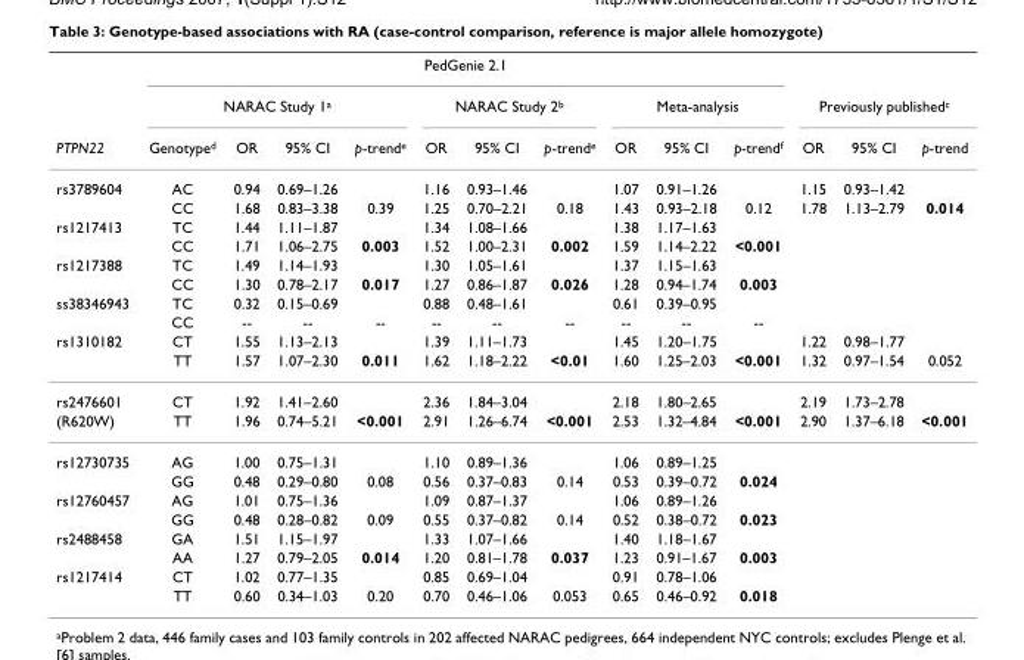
<table><thead><tr><td rowspan="3">PTPN22</td><td colspan="10">PedGenie 2.1</td><td></td><td></td><td></td></tr><tr><td colspan="4">NARAC Study 1<sup>a</sup></td><td colspan="3">NARAC Study 2<sup>b</sup></td><td colspan="3">Meta-analysis</td><td colspan="3">Previously published<sup>c</sup></td></tr><tr><td>Genotype<sup>d</sup></td><td>OR</td><td>95% CI</td><td>p-trend<sup>e</sup></td><td>OR</td><td>95% CI</td><td>p-trend<sup>e</sup></td><td>OR</td><td>95% CI</td><td>p-trend<sup>f</sup></td><td>OR</td><td>95% CI</td><td>p-trend</td></tr></thead><tbody><tr><td rowspan="2">rs3789604</td><td>AC</td><td>0.94</td><td>0.69–1.26</td><td></td><td>1.16</td><td>0.93–1.46</td><td></td><td>1.07</td><td>0.91–1.26</td><td></td><td>1.15</td><td>0.93–1.42</td><td></td></tr><tr><td>CC</td><td>1.68</td><td>0.83–3.38</td><td>0.39</td><td>1.25</td><td>0.70–2.21</td><td>0.18</td><td>1.43</td><td>0.93–2.18</td><td>0.12</td><td>1.78</td><td>1.13–2.79</td><td>0.014</td></tr><tr><td rowspan="2">rs1217413</td><td>TC</td><td>1.44</td><td>1.11–1.87</td><td></td><td>1.34</td><td>1.08–1.66</td><td></td><td>1.38</td><td>1.17–1.63</td><td></td><td></td><td></td><td></td></tr><tr><td>CC</td><td>1.71</td><td>1.06–2.75</td><td>0.003</td><td>1.52</td><td>1.00–2.31</td><td>0.002</td><td>1.59</td><td>1.14–2.22</td><td>&lt;0.001</td><td></td><td></td><td></td></tr><tr><td rowspan="2">rs1217388</td><td>TC</td><td>1.49</td><td>1.14–1.93</td><td></td><td>1.30</td><td>1.05–1.61</td><td></td><td>1.37</td><td>1.15–1.63</td><td></td><td></td><td></td><td></td></tr><tr><td>CC</td><td>1.30</td><td>0.78–2.17</td><td>0.017</td><td>1.27</td><td>0.86–1.87</td><td>0.026</td><td>1.28</td><td>0.94–1.74</td><td>0.003</td><td></td><td></td><td></td></tr><tr><td rowspan="2">ss38346943</td><td>TC</td><td>0.32</td><td>0.15–0.69</td><td></td><td>0.88</td><td>0.48–1.61</td><td></td><td>0.61</td><td>0.39–0.95</td><td></td><td></td><td></td><td></td></tr><tr><td>CC</td><td>--</td><td>--</td><td>--</td><td>--</td><td>--</td><td>--</td><td>--</td><td>--</td><td>--</td><td></td><td></td><td></td></tr><tr><td rowspan="2">rs1310182</td><td>CT</td><td>1.55</td><td>1.13–2.13</td><td></td><td>1.39</td><td>1.11–1.73</td><td></td><td>1.45</td><td>1.20–1.75</td><td></td><td>1.22</td><td>0.98–1.77</td><td></td></tr><tr><td>TT</td><td>1.57</td><td>1.07–2.30</td><td>0.011</td><td>1.62</td><td>1.18–2.22</td><td>&lt;0.01</td><td>1.60</td><td>1.25–2.03</td><td>&lt;0.001</td><td>1.32</td><td>0.97–1.54</td><td>0.052</td></tr><tr><td>rs2476601</td><td>CT</td><td>1.92</td><td>1.41–2.60</td><td></td><td>2.36</td><td>1.84–3.04</td><td></td><td>2.18</td><td>1.80–2.65</td><td></td><td>2.19</td><td>1.73–2.78</td><td></td></tr><tr><td>(R620W)</td><td>TT</td><td>1.96</td><td>0.74–5.21</td><td>&lt;0.001</td><td>2.91</td><td>1.26–6.74</td><td>&lt;0.001</td><td>2.53</td><td>1.32–4.84</td><td>&lt;0.001</td><td>2.90</td><td>1.37–6.18</td><td>&lt;0.001</td></tr><tr><td rowspan="2">rs12730735</td><td>AG</td><td>1.00</td><td>0.75–1.31</td><td></td><td>1.10</td><td>0.89–1.36</td><td></td><td>1.06</td><td>0.89–1.25</td><td></td><td></td><td></td><td></td></tr><tr><td>GG</td><td>0.48</td><td>0.29–0.80</td><td>0.08</td><td>0.56</td><td>0.37–0.83</td><td>0.14</td><td>0.53</td><td>0.39–0.72</td><td>0.024</td><td></td><td></td><td></td></tr><tr><td rowspan="2">rs12760457</td><td>AG</td><td>1.01</td><td>0.75–1.36</td><td></td><td>1.09</td><td>0.87–1.37</td><td></td><td>1.06</td><td>0.89–1.26</td><td></td><td></td><td></td><td></td></tr><tr><td>GG</td><td>0.48</td><td>0.28–0.82</td><td>0.09</td><td>0.55</td><td>0.37–0.82</td><td>0.14</td><td>0.52</td><td>0.38–0.72</td><td>0.023</td><td></td><td></td><td></td></tr><tr><td rowspan="2">rs2488458</td><td>GA</td><td>1.51</td><td>1.15–1.97</td><td></td><td>1.33</td><td>1.07–1.66</td><td></td><td>1.40</td><td>1.18–1.67</td><td></td><td></td><td></td><td></td></tr><tr><td>AA</td><td>1.27</td><td>0.79–2.05</td><td>0.014</td><td>1.20</td><td>0.81–1.78</td><td>0.037</td><td>1.23</td><td>0.91–1.67</td><td>0.003</td><td></td><td></td><td></td></tr><tr><td rowspan="2">rs1217414</td><td>CT</td><td>1.02</td><td>0.77–1.35</td><td></td><td>0.85</td><td>0.69–1.04</td><td></td><td>0.91</td><td>0.78–1.06</td><td></td><td></td><td></td><td></td></tr><tr><td>TT</td><td>0.60</td><td>0.34–1.03</td><td>0.20</td><td>0.70</td><td>0.46–1.06</td><td>0.053</td><td>0.65</td><td>0.46–0.92</td><td>0.018</td><td></td><td></td><td></td></tr></tbody></table>